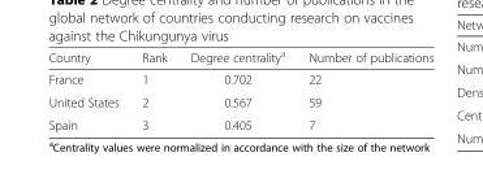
<table><thead><tr><td>Country</td><td>Rank</td><td>Degree centrality<sup>a</sup></td><td>Number of publications</td></tr></thead><tbody><tr><td>France</td><td>1</td><td>0.702</td><td>22</td></tr><tr><td>United States</td><td>2</td><td>0.567</td><td>59</td></tr><tr><td>Spain</td><td>3</td><td>0.405</td><td>7</td></tr></tbody></table>